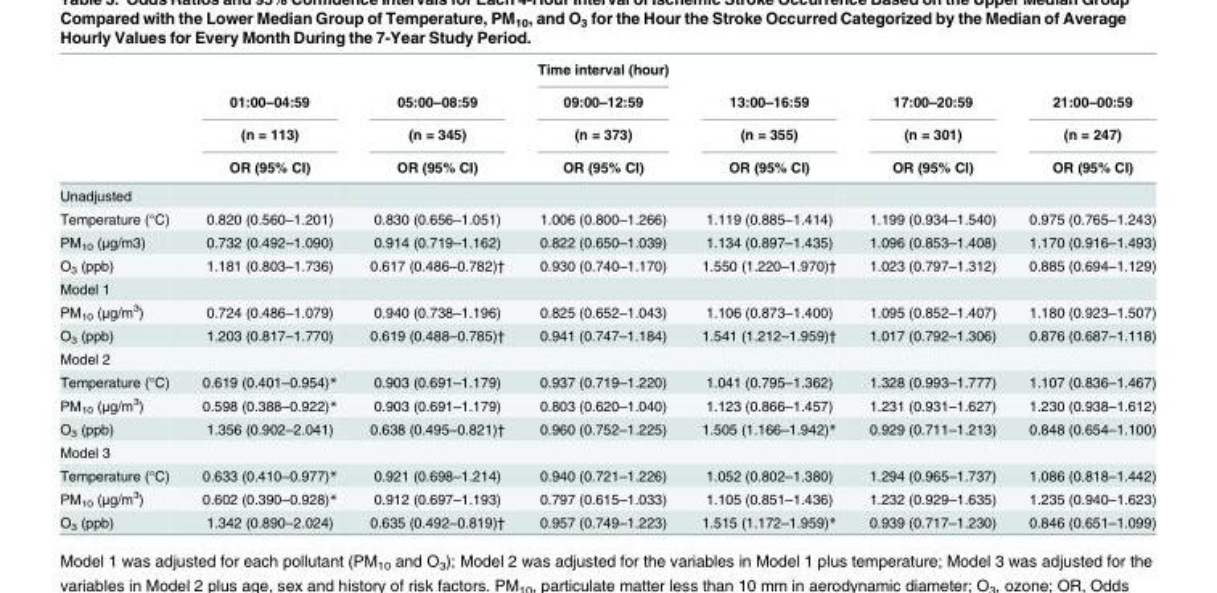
<table><thead><tr><td rowspan="4"></td><td rowspan="4">01:00–04:59 (n = 113) OR (95% CI)</td><td rowspan="4">05:00–08:59 (n = 345) OR (95% CI)</td><td rowspan="4">Time interval (hour) 09:00–12:59 (n = 373) OR (95% CI)</td><td rowspan="4">13:00–16:59 (n = 355) OR (95% CI)</td><td rowspan="4">17:00–20:59 (n = 301) OR (95% CI)</td><td rowspan="4">21:00–00:59 (n = 247) OR (95% CI)</td></tr><tr></tr><tr></tr><tr></tr></thead><tbody><tr><td colspan="7">Unadjusted</td></tr><tr><td>Temperature (°C)</td><td>0.820 (0.560–1.201)</td><td>0.830 (0.656–1.051)</td><td>1.006 (0.800–1.266)</td><td>1.119 (0.885–1.414)</td><td>1.199 (0.934–1.540)</td><td>0.975 (0.765–1.243)</td></tr><tr><td>PM<sub>10</sub> (μg/m3)</td><td>0.732 (0.492–1.090)</td><td>0.914 (0.719–1.162)</td><td>0.822 (0.650–1.039)</td><td>1.134 (0.897–1.435)</td><td>1.096 (0.853–1.408)</td><td>1.170 (0.916–1.493)</td></tr><tr><td>O<sub>3</sub> (ppb)</td><td>1.181 (0.803–1.736)</td><td>0.617 (0.486–0.782)†</td><td>0.930 (0.740–1.170)</td><td>1.550 (1.220–1.970)†</td><td>1.023 (0.797–1.312)</td><td>0.885 (0.694–1.129)</td></tr><tr><td colspan="7">Model 1</td></tr><tr><td>PM<sub>10</sub> (μg/m<sup>3</sup>)</td><td>0.724 (0.486–1.079)</td><td>0.940 (0.738–1.196)</td><td>0.825 (0.652–1.043)</td><td>1.106 (0.873–1.400)</td><td>1.095 (0.852–1.407)</td><td>1.180 (0.923–1.507)</td></tr><tr><td>O<sub>3</sub> (ppb)</td><td>1.203 (0.817–1.770)</td><td>0.619 (0.488–0.785)†</td><td>0.941 (0.747–1.184)</td><td>1.541 (1.212–1.959)†</td><td>1.017 (0.792–1.306)</td><td>0.876 (0.687–1.118)</td></tr><tr><td colspan="7">Model 2</td></tr><tr><td>Temperature (°C)</td><td>0.619 (0.401–0.954)*</td><td>0.903 (0.691–1.179)</td><td>0.937 (0.719–1.220)</td><td>1.041 (0.795–1.362)</td><td>1.328 (0.993–1.777)</td><td>1.107 (0.836–1.467)</td></tr><tr><td>PM<sub>10</sub> (μg/m<sup>3</sup>)</td><td>0.598 (0.388–0.922)*</td><td>0.903 (0.691–1.179)</td><td>0.803 (0.620–1.040)</td><td>1.123 (0.866–1.457)</td><td>1.231 (0.931–1.627)</td><td>1.230 (0.938–1.612)</td></tr><tr><td>O<sub>3</sub> (ppb)</td><td>1.356 (0.902–2.041)</td><td>0.638 (0.495–0.821)†</td><td>0.960 (0.752–1.225)</td><td>1.505 (1.166–1.942)*</td><td>0.929 (0.711–1.213)</td><td>0.848 (0.654–1.100)</td></tr><tr><td colspan="7">Model 3</td></tr><tr><td>Temperature (°C)</td><td>0.633 (0.410–0.977)*</td><td>0.921 (0.698–1.214)</td><td>0.940 (0.721–1.226)</td><td>1.052 (0.802–1.380)</td><td>1.294 (0.965–1.737)</td><td>1.086 (0.818–1.442)</td></tr><tr><td>PM<sub>10</sub> (μg/m<sup>3</sup>)</td><td>0.602 (0.390–0.928)*</td><td>0.912 (0.697–1.193)</td><td>0.797 (0.615–1.033)</td><td>1.105 (0.851–1.436)</td><td>1.232 (0.929–1.635)</td><td>1.235 (0.940–1.623)</td></tr><tr><td>O<sub>3</sub> (ppb)</td><td>1.342 (0.890–2.024)</td><td>0.635 (0.492–0.819)†</td><td>0.957 (0.749–1.223)</td><td>1.515 (1.172–1.959)*</td><td>0.939 (0.717–1.230)</td><td>0.846 (0.651–1.099)</td></tr></tbody></table>